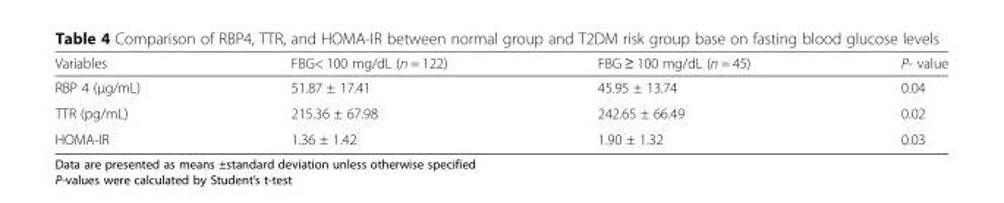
<table><thead><tr><td>Variables</td><td>FBG&lt; 100 mg/dL (n = 122)</td><td>FBG ≥ 100 mg/dL (n = 45)</td><td>P- value</td></tr></thead><tbody><tr><td>RBP 4 (μg/mL)</td><td>51.87 ± 17.41</td><td>45.95 ± 13.74</td><td>0.04</td></tr><tr><td>TTR (pg/mL)</td><td>215.36 ± 67.98</td><td>242.65 ± 66.49</td><td>0.02</td></tr><tr><td>HOMA-IR</td><td>1.36 ± 1.42</td><td>1.90 ± 1.32</td><td>0.03</td></tr></tbody></table>